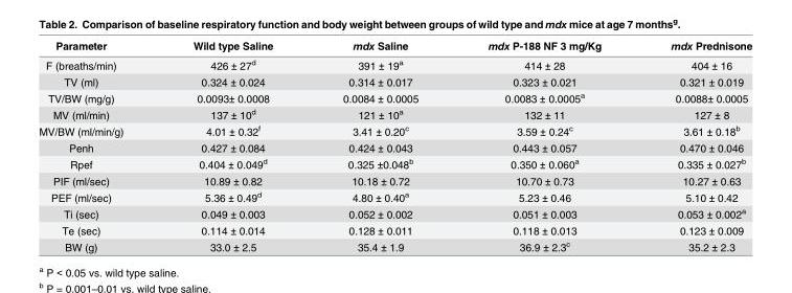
<table><thead><tr><td>Parameter</td><td>Wild type Saline</td><td>mdx Saline</td><td>mdx P-188 NF 3 mg/Kg</td><td>mdx Prednisone</td></tr></thead><tbody><tr><td>F (breaths/min)</td><td>426 ± 27<sup>d</sup></td><td>391 ± 19<sup>a</sup></td><td>414 ± 28</td><td>404 ± 16</td></tr><tr><td>TV (ml)</td><td>0.324 ± 0.024</td><td>0.314 ± 0.017</td><td>0.323 ± 0.021</td><td>0.321 ± 0.019</td></tr><tr><td>TV/BW (mg/g)</td><td>0.0093± 0.0008</td><td>0.0084 ± 0.0005</td><td>0.0083 ± 0.0005<sup>a</sup></td><td>0.0088± 0.0005</td></tr><tr><td>MV (ml/min)</td><td>137 ± 10<sup>d</sup></td><td>121 ± 10<sup>a</sup></td><td>132 ± 11</td><td>127 ± 8</td></tr><tr><td>MV/BW (ml/min/g)</td><td>4.01 ± 0.32<sup>f</sup></td><td>3.41 ± 0.20<sup>c</sup></td><td>3.59 ± 0.24<sup>c</sup></td><td>3.61 ± 0.18<sup>b</sup></td></tr><tr><td>Penh</td><td>0.427 ± 0.084</td><td>0.424 ± 0.043</td><td>0.443 ± 0.057</td><td>0.470 ± 0.046</td></tr><tr><td>Rpef</td><td>0.404 ± 0.049<sup>d</sup></td><td>0.325 ±0.048<sup>b</sup></td><td>0.350 ± 0.060<sup>a</sup></td><td>0.335 ± 0.027<sup>b</sup></td></tr><tr><td>PIF (ml/sec)</td><td>10.89 ± 0.82</td><td>10.18 ± 0.72</td><td>10.70 ± 0.73</td><td>10.27 ± 0.63</td></tr><tr><td>PEF (ml/sec)</td><td>5.36 ± 0.49<sup>d</sup></td><td>4.80 ± 0.40<sup>a</sup></td><td>5.23 ± 0.46</td><td>5.10 ± 0.42</td></tr><tr><td>Ti (sec)</td><td>0.049 ± 0.003</td><td>0.052 ± 0.002</td><td>0.051 ± 0.003</td><td>0.053 ± 0.002<sup>a</sup></td></tr><tr><td>Te (sec)</td><td>0.114 ± 0.014</td><td>0.128 ± 0.011</td><td>0.118 ± 0.013</td><td>0.123 ± 0.009</td></tr><tr><td>BW (g)</td><td>33.0 ± 2.5</td><td>35.4 ± 1.9</td><td>36.9 ± 2.3<sup>c</sup></td><td>35.2 ± 2.3</td></tr></tbody></table>